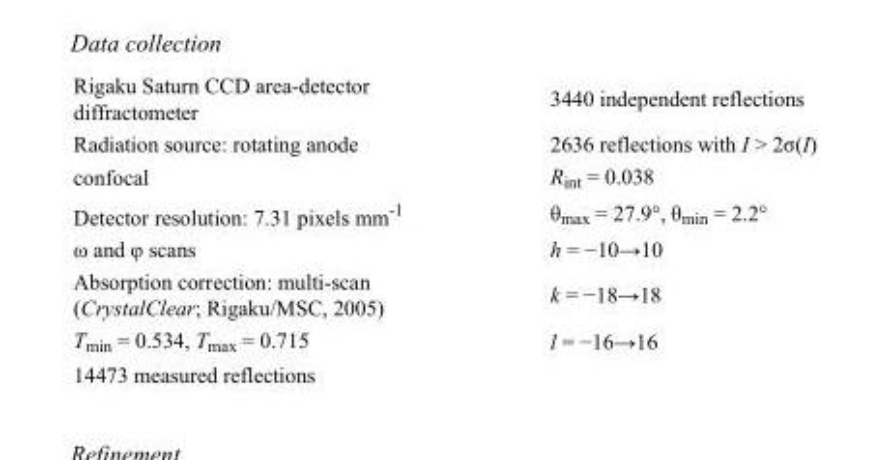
<table><tbody><tr><td>Rigaku Saturn CCD area-detector diffractometer</td><td>3440 independent reflections</td></tr><tr><td>Radiation source: rotating anode</td><td>2636 reflections with I &gt; 2σ(I)</td></tr><tr><td>confocal</td><td>R<sub>int</sub> = 0.038</td></tr><tr><td>Detector resolution: 7.31 pixels mm<sup>-1</sup></td><td>θ<sub>max</sub> = 27.9°, θ<sub>min</sub> = 2.2°</td></tr><tr><td>ω and φ scans</td><td>h = −10→10</td></tr><tr><td>Absorption correction: multi-scan (CrystalClear; Rigaku/MSC, 2005)</td><td>k = −18→18</td></tr><tr><td>T<sub>min</sub> = 0.534, T<sub>max</sub> = 0.715</td><td>l = −16→16</td></tr><tr><td>14473 measured reflections</td><td></td></tr></tbody></table>